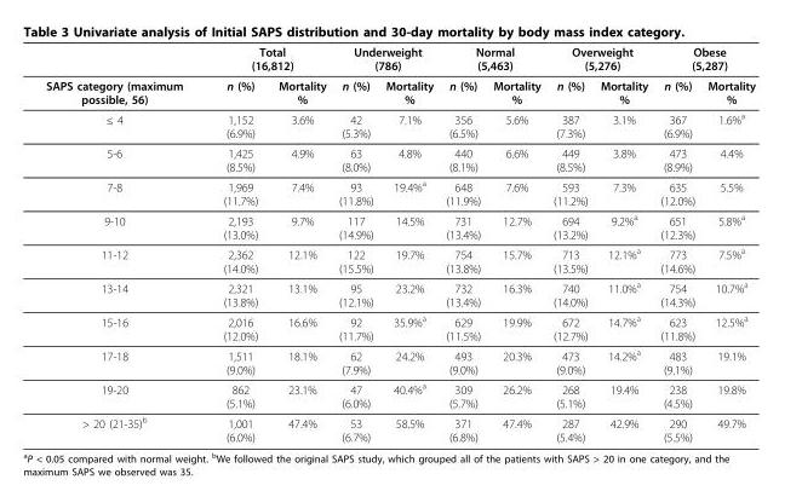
<table><thead><tr><td rowspan="2">SAPS category (maximum possible, 56)</td><td colspan="2">Total (16,812)</td><td colspan="2">Underweight (786)</td><td colspan="2">Normal (5,463)</td><td colspan="2">Overweight (5,276)</td><td colspan="2">Obese (5,287)</td></tr><tr><td>n (%)</td><td>Mortality %</td><td>n (%)</td><td>Mortality %</td><td>n (%)</td><td>Mortality %</td><td>n (%)</td><td>Mortality %</td><td>n (%)</td><td>Mortality %</td></tr></thead><tbody><tr><td>≤ 4</td><td>1,152 (6.9%)</td><td>3.6%</td><td>42 (5.3%)</td><td>7.1%</td><td>356 (6.5%)</td><td>5.6%</td><td>387 (7.3%)</td><td>3.1%</td><td>367 (6.9%)</td><td>1.6%<sup>a</sup></td></tr><tr><td>5-6</td><td>1,425 (8.5%)</td><td>4.9%</td><td>63 (8.0%)</td><td>4.8%</td><td>440 (8.1%)</td><td>6.6%</td><td>449 (8.5%)</td><td>3.8%</td><td>473 (8.9%)</td><td>4.4%</td></tr><tr><td>7-8</td><td>1,969 (11.7%)</td><td>7.4%</td><td>93 (11.8%)</td><td>19.4%<sup>a</sup></td><td>648 (11.9%)</td><td>7.6%</td><td>593 (11.2%)</td><td>7.3%</td><td>635 (12.0%)</td><td>5.5%</td></tr><tr><td>9-10</td><td>2,193 (13.0%)</td><td>9.7%</td><td>117 (14.9%)</td><td>14.5%</td><td>731 (13.4%)</td><td>12.7%</td><td>694 (13.2%)</td><td>9.2%<sup>a</sup></td><td>651 (12.3%)</td><td>5.8%<sup>a</sup></td></tr><tr><td>11-12</td><td>2,362 (14.0%)</td><td>12.1%</td><td>122 (15.5%)</td><td>19.7%</td><td>754 (13.8%)</td><td>15.7%</td><td>713 (13.5%)</td><td>12.1%<sup>a</sup></td><td>773 (14.6%)</td><td>7.5%<sup>a</sup></td></tr><tr><td>13-14</td><td>2,321 (13.8%)</td><td>13.1%</td><td>95 (12.1%)</td><td>23.2%</td><td>732 (13.4%)</td><td>16.3%</td><td>740 (14.0%)</td><td>11.0%<sup>a</sup></td><td>754 (14.3%)</td><td>10.7%<sup>a</sup></td></tr><tr><td>15-16</td><td>2,016 (12.0%)</td><td>16.6%</td><td>92 (11.7%)</td><td>35.9%<sup>a</sup></td><td>629 (11.5%)</td><td>19.9%</td><td>672 (12.7%)</td><td>14.7%<sup>a</sup></td><td>623 (11.8%)</td><td>12.5%<sup>a</sup></td></tr><tr><td>17-18</td><td>1,511 (9.0%)</td><td>18.1%</td><td>62 (7.9%)</td><td>24.2%</td><td>493 (9.0%)</td><td>20.3%</td><td>473 (9.0%)</td><td>14.2%<sup>a</sup></td><td>483 (9.1%)</td><td>19.1%</td></tr><tr><td>19-20</td><td>862 (5.1%)</td><td>23.1%</td><td>47 (6.0%)</td><td>40.4%<sup>a</sup></td><td>309 (5.7%)</td><td>26.2%</td><td>268 (5.1%)</td><td>19.4%</td><td>238 (4.5%)</td><td>19.8%</td></tr><tr><td>&gt; 20 (21-35)<sup>b</sup></td><td>1,001 (6.0%)</td><td>47.4%</td><td>53 (6.7%)</td><td>58.5%</td><td>371 (6.8%)</td><td>47.4%</td><td>287 (5.4%)</td><td>42.9%</td><td>290 (5.5%)</td><td>49.7%</td></tr></tbody></table>